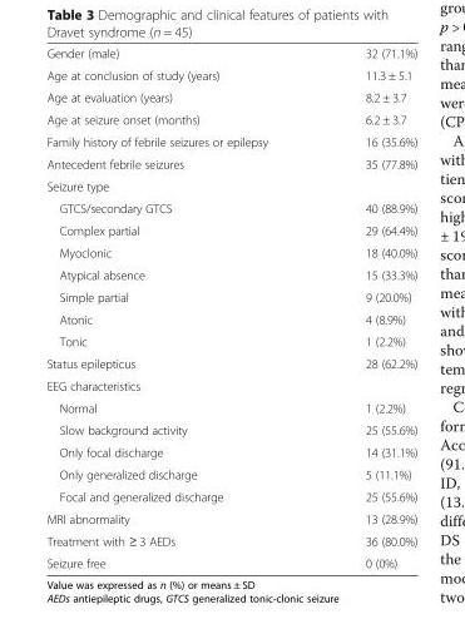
<table><tbody><tr><td>Gender (male)</td><td>32 (71.1%)</td></tr><tr><td>Age at conclusion of study (years)</td><td>11.3 ± 5.1</td></tr><tr><td>Age at evaluation (years)</td><td>8.2 ± 3.7</td></tr><tr><td>Age at seizure onset (months)</td><td>6.2 ± 3.7</td></tr><tr><td>Family history of febrile seizures or epilepsy</td><td>16 (35.6%)</td></tr><tr><td>Antecedent febrile seizures</td><td>35 (77.8%)</td></tr><tr><td colspan="2">Seizure type</td></tr><tr><td>GTCS/secondary GTCS</td><td>40 (88.9%)</td></tr><tr><td>Complex partial</td><td>29 (64.4%)</td></tr><tr><td>Myoclonic</td><td>18 (40.0%)</td></tr><tr><td>Atypical absence</td><td>15 (33.3%)</td></tr><tr><td>Simple partial</td><td>9 (20.0%)</td></tr><tr><td>Atonic</td><td>4 (8.9%)</td></tr><tr><td>Tonic</td><td>1 (2.2%)</td></tr><tr><td>Status epilepticus</td><td>28 (62.2%)</td></tr><tr><td colspan="2">EEG characteristics</td></tr><tr><td>Normal</td><td>1 (2.2%)</td></tr><tr><td>Slow background activity</td><td>25 (55.6%)</td></tr><tr><td>Only focal discharge</td><td>14 (31.1%)</td></tr><tr><td>Only generalized discharge</td><td>5 (11.1%)</td></tr><tr><td>Focal and generalized discharge</td><td>25 (55.6%)</td></tr><tr><td>MRI abnormality</td><td>13 (28.9%)</td></tr><tr><td>Treatment with ≥ 3 AEDs</td><td>36 (80.0%)</td></tr><tr><td>Seizure free</td><td>0 (0%)</td></tr></tbody></table>